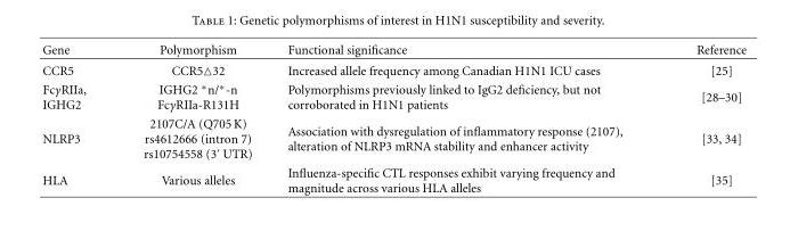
<table><thead><tr><td>Gene</td><td>Polymorphism</td><td>Functional significance</td><td>Reference</td></tr></thead><tbody><tr><td>CCR5</td><td>CCR5△32</td><td>Increased allele frequency among Canadian H1N1 ICU cases</td><td>[25]</td></tr><tr><td>FcγRIIa, IGHG2</td><td>IGHG2 ∗n/∗-n FcγRIIa-R131H</td><td>Polymorphisms previously linked to IgG2 deficiency, but not corroborated in H1N1 patients</td><td>[28–30]</td></tr><tr><td>NLRP3</td><td>2107C/A (Q705 K) rs4612666 (intron 7) rs10754558 (3′ UTR)</td><td>Association with dysregulation of inflammatory response (2107), alteration of NLRP3 mRNA stability and enhancer activity</td><td>[33, 34]</td></tr><tr><td>HLA</td><td>Various alleles</td><td>Influenza-specific CTL responses exhibit varying frequency and magnitude across various HLA alleles</td><td>[35]</td></tr></tbody></table>